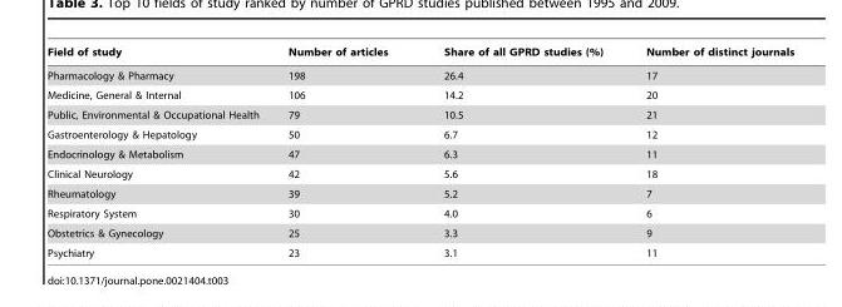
<table><thead><tr><td>Field of study</td><td>Number of articles</td><td>Share of all GPRD studies (%)</td><td>Number of distinct journals</td></tr></thead><tbody><tr><td>Pharmacology &amp; Pharmacy</td><td>198</td><td>26.4</td><td>17</td></tr><tr><td>Medicine, General &amp; Internal</td><td>106</td><td>14.2</td><td>20</td></tr><tr><td>Public, Environmental &amp; Occupational Health</td><td>79</td><td>10.5</td><td>21</td></tr><tr><td>Gastroenterology &amp; Hepatology</td><td>50</td><td>6.7</td><td>12</td></tr><tr><td>Endocrinology &amp; Metabolism</td><td>47</td><td>6.3</td><td>11</td></tr><tr><td>Clinical Neurology</td><td>42</td><td>5.6</td><td>18</td></tr><tr><td>Rheumatology</td><td>39</td><td>5.2</td><td>7</td></tr><tr><td>Respiratory System</td><td>30</td><td>4.0</td><td>6</td></tr><tr><td>Obstetrics &amp; Gynecology</td><td>25</td><td>3.3</td><td>9</td></tr><tr><td>Psychiatry</td><td>23</td><td>3.1</td><td>11</td></tr></tbody></table>